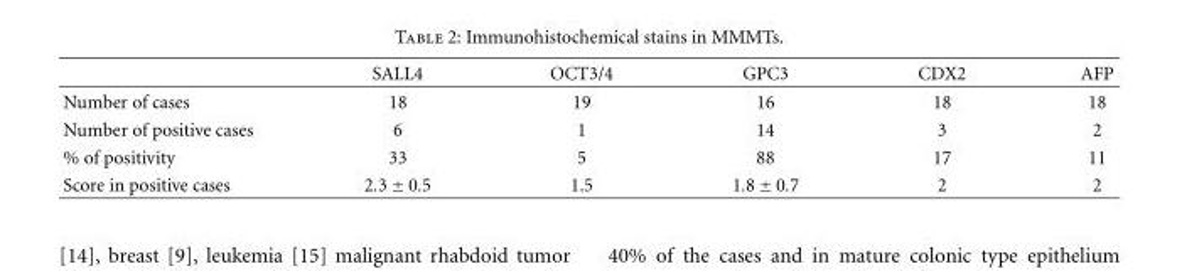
<table><thead><tr><td></td><td>SALL4</td><td>OCT3/4</td><td>GPC3</td><td>CDX2</td><td>AFP</td></tr></thead><tbody><tr><td>Number of cases</td><td>18</td><td>19</td><td>16</td><td>18</td><td>18</td></tr><tr><td>Number of positive cases</td><td>6</td><td>1</td><td>14</td><td>3</td><td>2</td></tr><tr><td>% of positivity</td><td>33</td><td>5</td><td>88</td><td>17</td><td>11</td></tr><tr><td>Score in positive cases</td><td>2.3 ± 0.5</td><td>1.5</td><td>1.8 ± 0.7</td><td>2</td><td>2</td></tr></tbody></table>